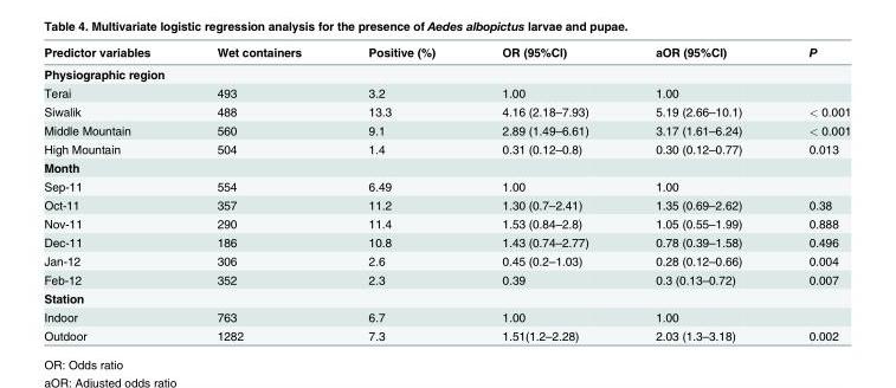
<table><thead><tr><td>Predictor variables</td><td>Wet containers</td><td>Positive (%)</td><td>OR (95%CI)</td><td>aOR (95%CI)</td><td>P</td></tr></thead><tbody><tr><td colspan="6">Physiographic region</td></tr><tr><td>Terai</td><td>493</td><td>3.2</td><td>1.00</td><td>1.00</td><td></td></tr><tr><td>Siwalik</td><td>488</td><td>13.3</td><td>4.16 (2.18–7.93)</td><td>5.19 (2.66–10.1)</td><td>&lt; 0.001</td></tr><tr><td>Middle Mountain</td><td>560</td><td>9.1</td><td>2.89 (1.49–6.61)</td><td>3.17 (1.61–6.24)</td><td>&lt; 0.001</td></tr><tr><td>High Mountain</td><td>504</td><td>1.4</td><td>0.31 (0.12–0.8)</td><td>0.30 (0.12–0.77)</td><td>0.013</td></tr><tr><td colspan="6">Month</td></tr><tr><td>Sep-11</td><td>554</td><td>6.49</td><td>1.00</td><td>1.00</td><td></td></tr><tr><td>Oct-11</td><td>357</td><td>11.2</td><td>1.30 (0.7–2.41)</td><td>1.35 (0.69–2.62)</td><td>0.38</td></tr><tr><td>Nov-11</td><td>290</td><td>11.4</td><td>1.53 (0.84–2.8)</td><td>1.05 (0.55–1.99)</td><td>0.888</td></tr><tr><td>Dec-11</td><td>186</td><td>10.8</td><td>1.43 (0.74–2.77)</td><td>0.78 (0.39–1.58)</td><td>0.496</td></tr><tr><td>Jan-12</td><td>306</td><td>2.6</td><td>0.45 (0.2–1.03)</td><td>0.28 (0.12–0.66)</td><td>0.004</td></tr><tr><td>Feb-12</td><td>352</td><td>2.3</td><td>0.39</td><td>0.3 (0.13–0.72)</td><td>0.007</td></tr><tr><td colspan="6">Station</td></tr><tr><td>Indoor</td><td>763</td><td>6.7</td><td>1.00</td><td>1.00</td><td></td></tr><tr><td>Outdoor</td><td>1282</td><td>7.3</td><td>1.51(1.2–2.28)</td><td>2.03 (1.3–3.18)</td><td>0.002</td></tr></tbody></table>